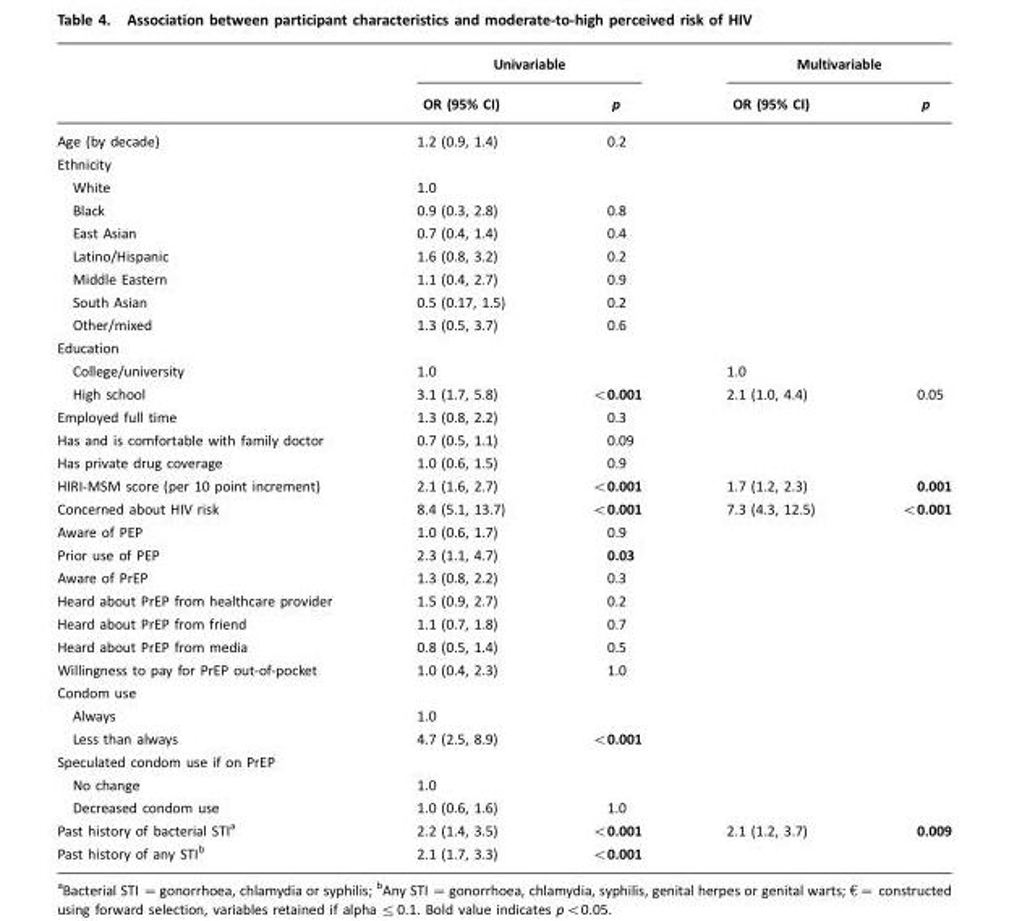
<table><thead><tr><td rowspan="2"></td><td colspan="2">Univariable</td><td colspan="2">Multivariable</td></tr><tr><td>OR (95% CI)</td><td>p</td><td>OR (95% CI)</td><td>p</td></tr></thead><tbody><tr><td>Age (by decade)</td><td>1.2 (0.9, 1.4)</td><td>0.2</td><td></td><td></td></tr><tr><td colspan="5">Ethnicity</td></tr><tr><td>White</td><td>1.0</td><td></td><td></td><td></td></tr><tr><td>Black</td><td>0.9 (0.3, 2.8)</td><td>0.8</td><td></td><td></td></tr><tr><td>East Asian</td><td>0.7 (0.4, 1.4)</td><td>0.4</td><td></td><td></td></tr><tr><td>Latino/Hispanic</td><td>1.6 (0.8, 3.2)</td><td>0.2</td><td></td><td></td></tr><tr><td>Middle Eastern</td><td>1.1 (0.4, 2.7)</td><td>0.9</td><td></td><td></td></tr><tr><td>South Asian</td><td>0.5 (0.17, 1.5)</td><td>0.2</td><td></td><td></td></tr><tr><td>Other/mixed</td><td>1.3 (0.5, 3.7)</td><td>0.6</td><td></td><td></td></tr><tr><td colspan="5">Education</td></tr><tr><td>College/university</td><td>1.0</td><td></td><td>1.0</td><td></td></tr><tr><td>High school</td><td>3.1 (1.7, 5.8)</td><td>&lt;0.001</td><td>2.1 (1.0, 4.4)</td><td>0.05</td></tr><tr><td>Employed full time</td><td>1.3 (0.8, 2.2)</td><td>0.3</td><td></td><td></td></tr><tr><td>Has and is comfortable with family doctor</td><td>0.7 (0.5, 1.1)</td><td>0.09</td><td></td><td></td></tr><tr><td>Has private drug coverage</td><td>1.0 (0.6, 1.5)</td><td>0.9</td><td></td><td></td></tr><tr><td>HIRI-MSM score (per 10 point increment)</td><td>2.1 (1.6, 2.7)</td><td>&lt;0.001</td><td>1.7 (1.2, 2.3)</td><td>0.001</td></tr><tr><td>Concerned about HIV risk</td><td>8.4 (5.1, 13.7)</td><td>&lt;0.001</td><td>7.3 (4.3, 12.5)</td><td>&lt;0.001</td></tr><tr><td>Aware of PEP</td><td>1.0 (0.6, 1.7)</td><td>0.9</td><td></td><td></td></tr><tr><td>Prior use of PEP</td><td>2.3 (1.1, 4.7)</td><td>0.03</td><td></td><td></td></tr><tr><td>Aware of PrEP</td><td>1.3 (0.8, 2.2)</td><td>0.3</td><td></td><td></td></tr><tr><td>Heard about PrEP from healthcare provider</td><td>1.5 (0.9, 2.7)</td><td>0.2</td><td></td><td></td></tr><tr><td>Heard about PrEP from friend</td><td>1.1 (0.7, 1.8)</td><td>0.7</td><td></td><td></td></tr><tr><td>Heard about PrEP from media</td><td>0.8 (0.5, 1.4)</td><td>0.5</td><td></td><td></td></tr><tr><td>Willingness to pay for PrEP out-of-pocket</td><td>1.0 (0.4, 2.3)</td><td>1.0</td><td></td><td></td></tr><tr><td colspan="5">Condom use</td></tr><tr><td>Always</td><td>1.0</td><td></td><td></td><td></td></tr><tr><td>Less than always</td><td>4.7 (2.5, 8.9)</td><td>&lt;0.001</td><td></td><td></td></tr><tr><td colspan="5">Speculated condom use if on PrEP</td></tr><tr><td>No change</td><td>1.0</td><td></td><td></td><td></td></tr><tr><td>Decreased condom use</td><td>1.0 (0.6, 1.6)</td><td>1.0</td><td></td><td></td></tr><tr><td>Past history of bacterial STI<sup>a</sup></td><td>2.2 (1.4, 3.5)</td><td>&lt;0.001</td><td>2.1 (1.2, 3.7)</td><td>0.009</td></tr><tr><td>Past history of any STI<sup>b</sup></td><td>2.1 (1.7, 3.3)</td><td>&lt;0.001</td><td></td><td></td></tr></tbody></table>